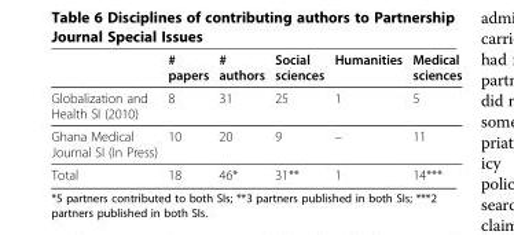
<table><thead><tr><td></td><td># papers</td><td># authors</td><td>Social sciences</td><td>Humanities</td><td>Medical sciences</td></tr></thead><tbody><tr><td>Globalization and Health SI (2010)</td><td>8</td><td>31</td><td>25</td><td>1</td><td>5</td></tr><tr><td>Ghana Medical Journal SI (In Press)</td><td>10</td><td>20</td><td>9</td><td>–</td><td>11</td></tr><tr><td>Total</td><td>18</td><td>46*</td><td>31**</td><td>1</td><td>14***</td></tr></tbody></table>